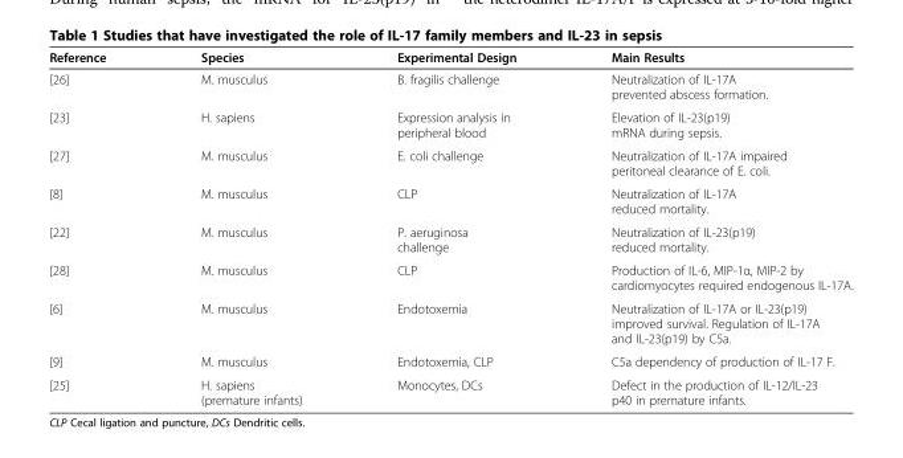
<table><thead><tr><td>Reference</td><td>Species</td><td>Experimental Design</td><td>Main Results</td></tr></thead><tbody><tr><td>[26]</td><td>M. musculus</td><td>B. fragilis challenge</td><td>Neutralization of IL-17A prevented abscess formation.</td></tr><tr><td>[23]</td><td>H. sapiens</td><td>Expression analysis in peripheral blood</td><td>Elevation of IL-23(p19) mRNA during sepsis.</td></tr><tr><td>[27]</td><td>M. musculus</td><td>E. coli challenge</td><td>Neutralization of IL-17A impaired peritoneal clearance of E. coli.</td></tr><tr><td>[8]</td><td>M. musculus</td><td>CLP</td><td>Neutralization of IL-17A reduced mortality.</td></tr><tr><td>[22]</td><td>M. musculus</td><td>P. aeruginosa challenge</td><td>Neutralization of IL-23(p19) reduced mortality.</td></tr><tr><td>[28]</td><td>M. musculus</td><td>CLP</td><td>Production of IL-6, MIP-1α, MIP-2 by cardiomyocytes required endogenous IL-17A.</td></tr><tr><td>[6]</td><td>M. musculus</td><td>Endotoxemia</td><td>Neutralization of IL-17A or IL-23(p19) improved survival. Regulation of IL-17A and IL-23(p19) by C5a.</td></tr><tr><td>[9]</td><td>M. musculus</td><td>Endotoxemia, CLP</td><td>C5a dependency of production of IL-17 F.</td></tr><tr><td>[25]</td><td>H. sapiens (premature infants)</td><td>Monocytes, DCs</td><td>Defect in the production of IL-12/IL-23 p40 in premature infants.</td></tr></tbody></table>